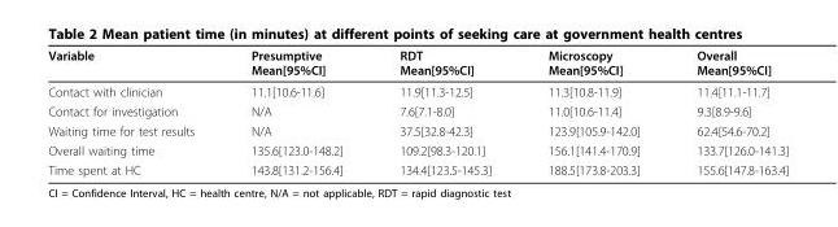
<table><thead><tr><td>Variable</td><td>Presumptive Mean[95%CI]</td><td>RDT Mean[95%CI]</td><td>Microscopy Mean[95%CI]</td><td>Overall Mean[95%CI]</td></tr></thead><tbody><tr><td>Contact with clinician</td><td>11.1[10.6-11.6]</td><td>11.9[11.3-12.5]</td><td>11.3[10.8-11.9]</td><td>11.4[11.1-11.7]</td></tr><tr><td>Contact for investigation</td><td>N/A</td><td>7.6[7.1-8.0]</td><td>11.0[10.6-11.4]</td><td>9.3[8.9-9.6]</td></tr><tr><td>Waiting time for test results</td><td>N/A</td><td>37.5[32.8-42.3]</td><td>123.9[105.9-142.0]</td><td>62.4[54.6-70.2]</td></tr><tr><td>Overall waiting time</td><td>135.6[123.0-148.2]</td><td>109.2[98.3-120.1]</td><td>156.1[141.4-170.9]</td><td>133.7[126.0-141.3]</td></tr><tr><td>Time spent at HC</td><td>143.8[131.2-156.4]</td><td>134.4[123.5-145.3]</td><td>188.5[173.8-203.3]</td><td>155.6[147.8-163.4]</td></tr></tbody></table>